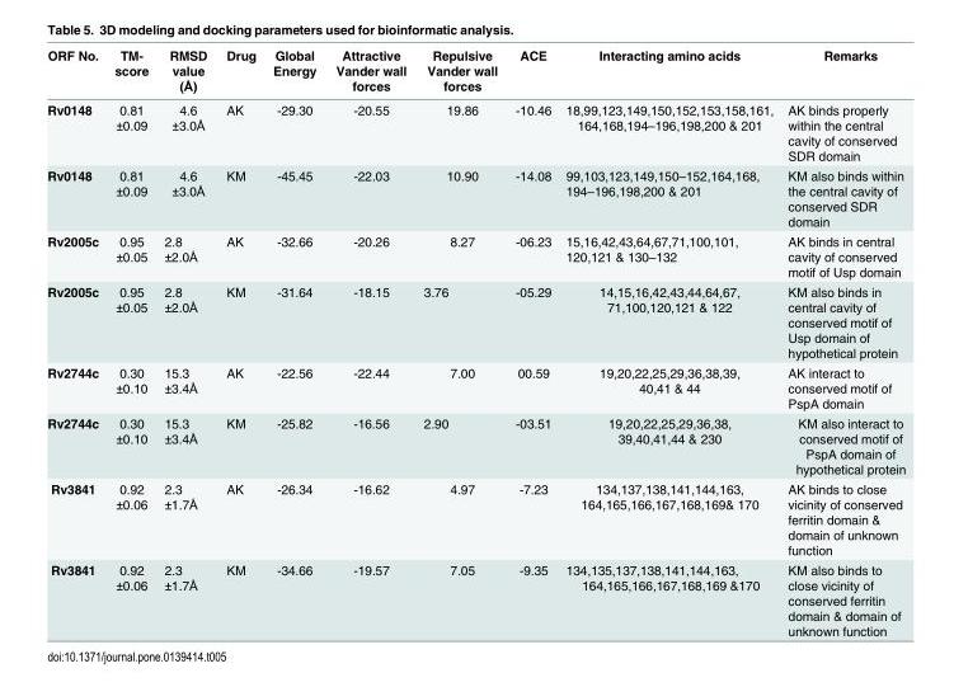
<table><thead><tr><td>ORF No.</td><td>TM- score</td><td>RMSD value (Å)</td><td>Drug</td><td>Global Energy</td><td>Attractive Vander wall forces</td><td>Repulsive Vander wall forces</td><td>ACE</td><td>Interacting amino acids</td><td>Remarks</td></tr></thead><tbody><tr><td>Rv0148</td><td>0.81 ±0.09</td><td>4.6 ±3.0Å</td><td>AK</td><td>-29.30</td><td>-20.55</td><td>19.86</td><td>-10.46</td><td>18,99,123,149,150,152,153,158,161, 164,168,194–196,198,200 &amp; 201</td><td>AK binds properly within the central cavity of conserved SDR domain</td></tr><tr><td>Rv0148</td><td>0.81 ±0.09</td><td>4.6 ±3.0Å</td><td>KM</td><td>-45.45</td><td>-22.03</td><td>10.90</td><td>-14.08</td><td>99,103,123,149,150–152,164,168, 194–196,198,200 &amp; 201</td><td>KM also binds within the central cavity of conserved SDR domain</td></tr><tr><td>Rv2005c</td><td>0.95 ±0.05</td><td>2.8 ±2.0Å</td><td>AK</td><td>-32.66</td><td>-20.26</td><td>8.27</td><td>-06.23</td><td>15,16,42,43,64,67,71,100,101, 120,121 &amp; 130–132</td><td>AK binds in central cavity of conserved motif of Usp domain</td></tr><tr><td>Rv2005c</td><td>0.95 ±0.05</td><td>2.8 ±2.0Å</td><td>KM</td><td>-31.64</td><td>-18.15</td><td>3.76</td><td>-05.29</td><td>14,15,16,42,43,44,64,67, 71,100,120,121 &amp; 122</td><td>KM also binds in central cavity of conserved motif of Usp domain of hypothetical protein</td></tr><tr><td>Rv2744c</td><td>0.30 ±0.10</td><td>15.3 ±3.4Å</td><td>AK</td><td>-22.56</td><td>-22.44</td><td>7.00</td><td>00.59</td><td>19,20,22,25,29,36,38,39, 40,41 &amp; 44</td><td>AK interact to conserved motif of PspA domain</td></tr><tr><td>Rv2744c</td><td>0.30 ±0.10</td><td>15.3 ±3.4Å</td><td>KM</td><td>-25.82</td><td>-16.56</td><td>2.90</td><td>-03.51</td><td>19,20,22,25,29,36,38, 39,40,41,44 &amp; 230</td><td>KM also interact to conserved motif of PspA domain of hypothetical protein</td></tr><tr><td>Rv3841</td><td>0.92 ±0.06</td><td>2.3 ±1.7Å</td><td>AK</td><td>-26.34</td><td>-16.62</td><td>4.97</td><td>-7.23</td><td>134,137,138,141,144,163, 164,165,166,167,168,169&amp; 170</td><td>AK binds to close vicinity of conserved ferritin domain &amp; domain of unknown function</td></tr><tr><td>Rv3841</td><td>0.92 ±0.06</td><td>2.3 ±1.7Å</td><td>KM</td><td>-34.66</td><td>-19.57</td><td>7.05</td><td>-9.35</td><td>134,135,137,138,141,144,163, 164,165,166,167,168,169 &amp;170</td><td>KM also binds to close vicinity of conserved ferritin domain &amp; domain of unknown function</td></tr></tbody></table>